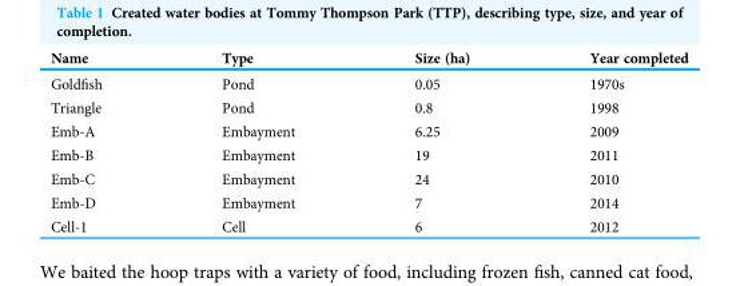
<table><thead><tr><td>Name</td><td>Type</td><td>Size (ha)</td><td>Year completed</td></tr></thead><tbody><tr><td>Goldfish</td><td>Pond</td><td>0.05</td><td>1970s</td></tr><tr><td>Triangle</td><td>Pond</td><td>0.8</td><td>1998</td></tr><tr><td>Emb-A</td><td>Embayment</td><td>6.25</td><td>2009</td></tr><tr><td>Emb-B</td><td>Embayment</td><td>19</td><td>2011</td></tr><tr><td>Emb-C</td><td>Embayment</td><td>24</td><td>2010</td></tr><tr><td>Emb-D</td><td>Embayment</td><td>7</td><td>2014</td></tr><tr><td>Cell-1</td><td>Cell</td><td>6</td><td>2012</td></tr></tbody></table>